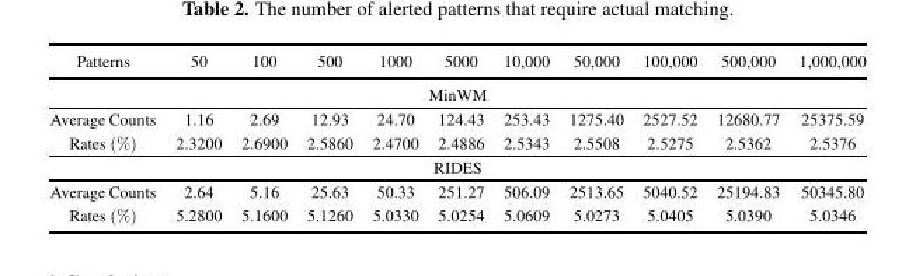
<table><thead><tr><td>Patterns</td><td>50</td><td>100</td><td>500</td><td>1000</td><td>5000</td><td>10,000</td><td>50,000</td><td>100,000</td><td>500,000</td><td>1,000,000</td></tr></thead><tbody><tr><td colspan="11">MinWM</td></tr><tr><td>Average Counts</td><td>1.16</td><td>2.69</td><td>12.93</td><td>24.70</td><td>124.43</td><td>253.43</td><td>1275.40</td><td>2527.52</td><td>12680.77</td><td>25375.59</td></tr><tr><td>Rates (%)</td><td>2.3200</td><td>2.6900</td><td>2.5860</td><td>2.4700</td><td>2.4886</td><td>2.5343</td><td>2.5508</td><td>2.5275</td><td>2.5362</td><td>2.5376</td></tr><tr><td colspan="11">RIDES</td></tr><tr><td>Average Counts</td><td>2.64</td><td>5.16</td><td>25.63</td><td>50.33</td><td>251.27</td><td>506.09</td><td>2513.65</td><td>5040.52</td><td>25194.83</td><td>50345.80</td></tr><tr><td>Rates (%)</td><td>5.2800</td><td>5.1600</td><td>5.1260</td><td>5.0330</td><td>5.0254</td><td>5.0609</td><td>5.0273</td><td>5.0405</td><td>5.0390</td><td>5.0346</td></tr></tbody></table>